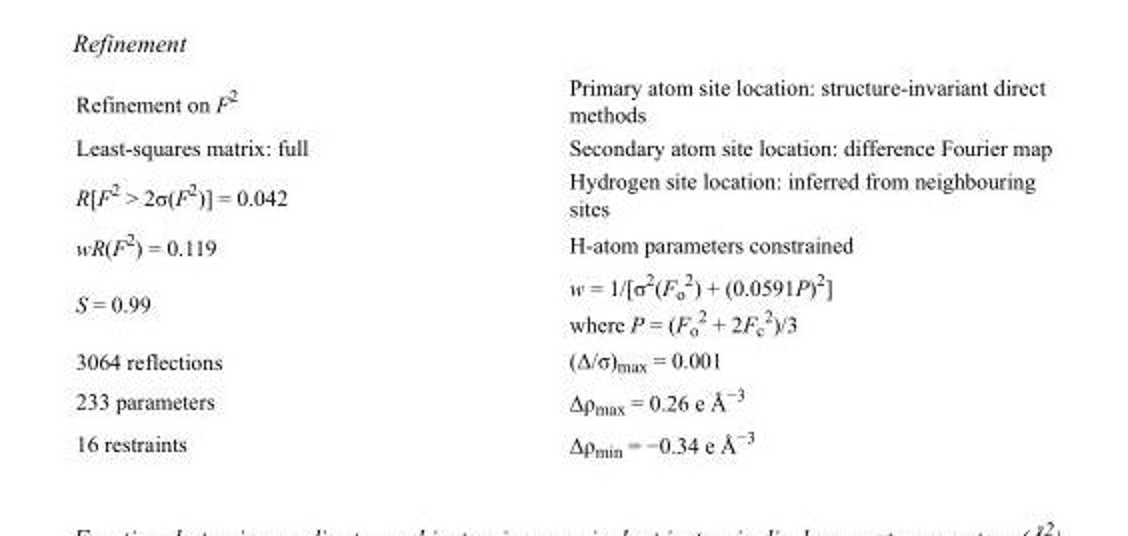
<table><tbody><tr><td>Refinement on F<sup>2</sup></td><td>Primary atom site location: structure-invariant direct methods</td></tr><tr><td>Least-squares matrix: full</td><td>Secondary atom site location: difference Fourier map</td></tr><tr><td>R[F<sup>2</sup> &gt; 2σ(F<sup>2</sup>)] = 0.042</td><td>Hydrogen site location: inferred from neighbouring sites</td></tr><tr><td>wR(F<sup>2</sup>) = 0.119</td><td>H-atom parameters constrained</td></tr><tr><td>S = 0.99</td><td>w = 1/[σ<sup>2</sup>(F<sub>o</sub> <sup>2</sup>) + (0.0591P)<sup>2</sup>] where P = (F<sub>o</sub> <sup>2</sup> + 2F<sub>c</sub> <sup>2</sup>)/3</td></tr><tr><td>3064 reflections</td><td>(Δ/σ)<sub>max</sub> = 0.001</td></tr><tr><td>233 parameters</td><td>Δρ<sub>max</sub> = 0.26 e Å<sup>−3</sup></td></tr><tr><td>16 restraints</td><td>Δρ<sub>min</sub> = −0.34 e Å<sup>−3</sup></td></tr></tbody></table>